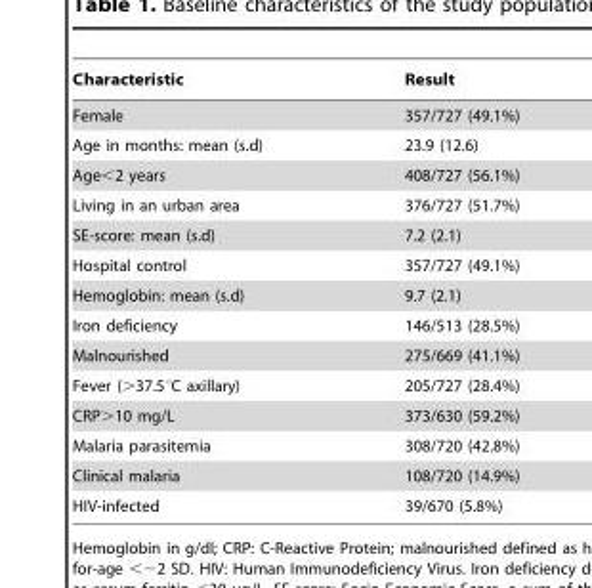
<table><thead><tr><td>Characteristic</td><td>Result</td></tr></thead><tbody><tr><td>Female</td><td>357/727 (49.1%)</td></tr><tr><td>Age in months: mean (s.d)</td><td>23.9 (12.6)</td></tr><tr><td>Age&lt;2 years</td><td>408/727 (56.1%)</td></tr><tr><td>Living in an urban area</td><td>376/727 (51.7%)</td></tr><tr><td>SE-score: mean (s.d)</td><td>7.2 (2.1)</td></tr><tr><td>Hospital control</td><td>357/727 (49.1%)</td></tr><tr><td>Hemoglobin: mean (s.d)</td><td>9.7 (2.1)</td></tr><tr><td>Iron deficiency</td><td>146/513 (28.5%)</td></tr><tr><td>Malnourished</td><td>275/669 (41.1%)</td></tr><tr><td>Fever (&gt;37.5°C axillary)</td><td>205/727 (28.4%)</td></tr><tr><td>CRP&gt;10 mg/L</td><td>373/630 (59.2%)</td></tr><tr><td>Malaria parasitemia</td><td>308/720 (42.8%)</td></tr><tr><td>Clinical malaria</td><td>108/720 (14.9%)</td></tr><tr><td>HIV-infected</td><td>39/670 (5.8%)</td></tr></tbody></table>